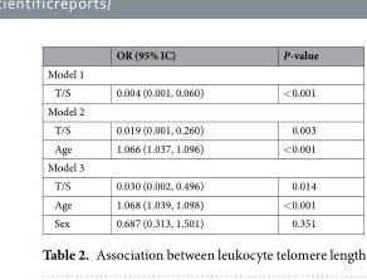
<table><thead><tr><td></td><td>OR (95% IC)</td><td>P-value</td></tr></thead><tbody><tr><td colspan="3">Model 1</td></tr><tr><td>T/S</td><td>0.004 (0.001, 0.060)</td><td>&lt;0.001</td></tr><tr><td colspan="3">Model 2</td></tr><tr><td>T/S</td><td>0.019 (0.001, 0.260)</td><td>0.003</td></tr><tr><td>Age</td><td>1.066 (1.037, 1.096)</td><td>&lt;0.001</td></tr><tr><td colspan="3">Model 3</td></tr><tr><td>T/S</td><td>0.030 (0.002, 0.496)</td><td>0.014</td></tr><tr><td>Age</td><td>1.068 (1.039, 1.098)</td><td>&lt;0.001</td></tr><tr><td>Sex</td><td>0.687 (0.313, 1.501)</td><td>0.351</td></tr></tbody></table>